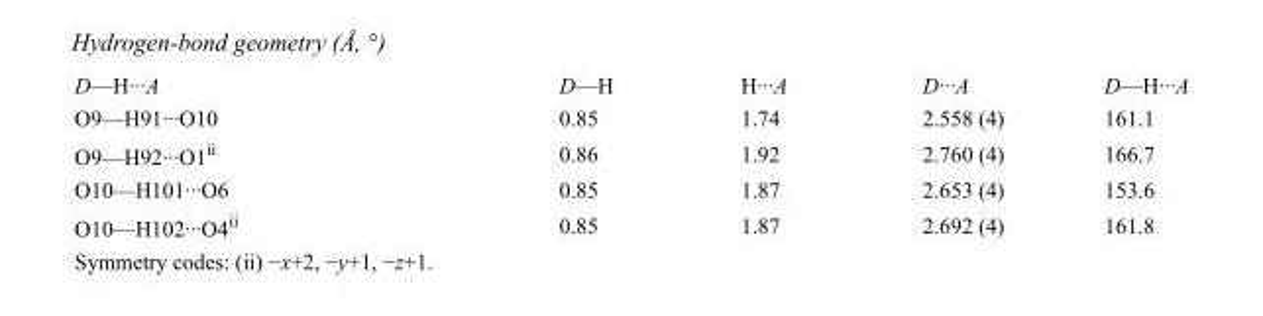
<table><tbody><tr><td>D—H···A</td><td>D—H</td><td>H···A</td><td>D···A</td><td>D—H···A</td></tr><tr><td>O9—H91···O10</td><td>0.85</td><td>1.74</td><td>2.558 (4)</td><td>161.1</td></tr><tr><td>O9—H92···O1<sup>ii</sup></td><td>0.86</td><td>1.92</td><td>2.760 (4)</td><td>166.7</td></tr><tr><td>O10—H101···O6</td><td>0.85</td><td>1.87</td><td>2.653 (4)</td><td>153.6</td></tr><tr><td>O10—H102···O4<sup>ii</sup></td><td>0.85</td><td>1.87</td><td>2.692 (4)</td><td>161.8</td></tr></tbody></table>